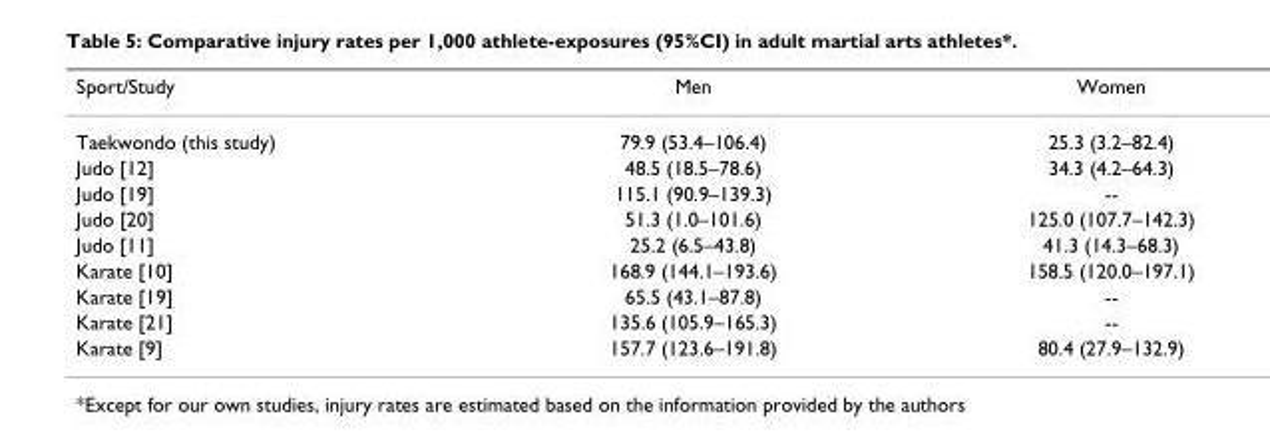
<table><thead><tr><td>Sport/Study</td><td>Men</td><td>Women</td></tr></thead><tbody><tr><td>Taekwondo (this study)</td><td>79.9 (53.4–106.4)</td><td>25.3 (3.2–82.4)</td></tr><tr><td>Judo [12]</td><td>48.5 (18.5–78.6)</td><td>34.3 (4.2–64.3)</td></tr><tr><td>Judo [19]</td><td>115.1 (90.9–139.3)</td><td>--</td></tr><tr><td>Judo [20]</td><td>51.3 (1.0–101.6)</td><td>125.0 (107.7–142.3)</td></tr><tr><td>Judo [11]</td><td>25.2 (6.5–43.8)</td><td>41.3 (14.3–68.3)</td></tr><tr><td>Karate [10]</td><td>168.9 (144.1–193.6)</td><td>158.5 (120.0–197.1)</td></tr><tr><td>Karate [19]</td><td>65.5 (43.1–87.8)</td><td>--</td></tr><tr><td>Karate [21]</td><td>135.6 (105.9–165.3)</td><td>--</td></tr><tr><td>Karate [9]</td><td>157.7 (123.6–191.8)</td><td>80.4 (27.9–132.9)</td></tr></tbody></table>